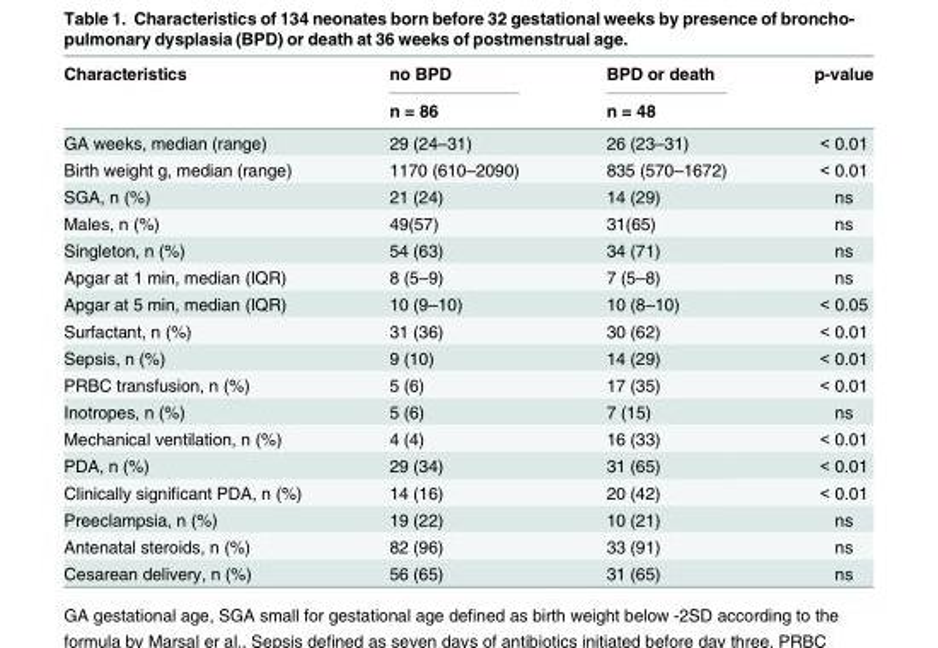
<table><thead><tr><td rowspan="2">Characteristics</td><td rowspan="2">no BPD n = 86</td><td rowspan="2">BPD or death n = 48</td><td rowspan="2">p-value</td></tr><tr></tr></thead><tbody><tr><td>GA weeks, median (range)</td><td>29 (24–31)</td><td>26 (23–31)</td><td>&lt; 0.01</td></tr><tr><td>Birth weight g, median (range)</td><td>1170 (610–2090)</td><td>835 (570–1672)</td><td>&lt; 0.01</td></tr><tr><td>SGA, n (%)</td><td>21 (24)</td><td>14 (29)</td><td>ns</td></tr><tr><td>Males, n (%)</td><td>49(57)</td><td>31(65)</td><td>ns</td></tr><tr><td>Singleton, n (%)</td><td>54 (63)</td><td>34 (71)</td><td>ns</td></tr><tr><td>Apgar at 1 min, median (IQR)</td><td>8 (5–9)</td><td>7 (5–8)</td><td>ns</td></tr><tr><td>Apgar at 5 min, median (IQR)</td><td>10 (9–10)</td><td>10 (8–10)</td><td>&lt; 0.05</td></tr><tr><td>Surfactant, n (%)</td><td>31 (36)</td><td>30 (62)</td><td>&lt; 0.01</td></tr><tr><td>Sepsis, n (%)</td><td>9 (10)</td><td>14 (29)</td><td>&lt; 0.01</td></tr><tr><td>PRBC transfusion, n (%)</td><td>5 (6)</td><td>17 (35)</td><td>&lt; 0.01</td></tr><tr><td>Inotropes, n (%)</td><td>5 (6)</td><td>7 (15)</td><td>ns</td></tr><tr><td>Mechanical ventilation, n (%)</td><td>4 (4)</td><td>16 (33)</td><td>&lt; 0.01</td></tr><tr><td>PDA, n (%)</td><td>29 (34)</td><td>31 (65)</td><td>&lt; 0.01</td></tr><tr><td>Clinically significant PDA, n (%)</td><td>14 (16)</td><td>20 (42)</td><td>&lt; 0.01</td></tr><tr><td>Preeclampsia, n (%)</td><td>19 (22)</td><td>10 (21)</td><td>ns</td></tr><tr><td>Antenatal steroids, n (%)</td><td>82 (96)</td><td>33 (91)</td><td>ns</td></tr><tr><td>Cesarean delivery, n (%)</td><td>56 (65)</td><td>31 (65)</td><td>ns</td></tr></tbody></table>